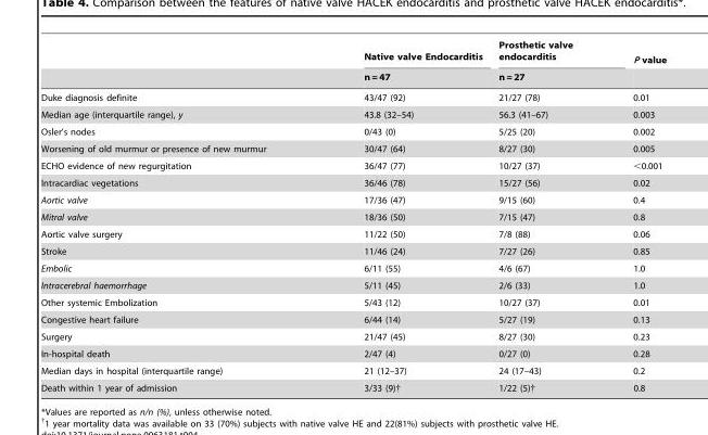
<table><thead><tr><td rowspan="2"></td><td rowspan="2">Native valve Endocarditis n = 47</td><td rowspan="2">Prosthetic valve endocarditis n = 27</td><td rowspan="2">P value</td></tr><tr></tr></thead><tbody><tr><td>Duke diagnosis definite</td><td>43/47 (92)</td><td>21/27 (78)</td><td>0.01</td></tr><tr><td>Median age (interquartile range), y</td><td>43.8 (32–54)</td><td>56.3 (41–67)</td><td>0.003</td></tr><tr><td>Osler’s nodes</td><td>0/43 (0)</td><td>5/25 (20)</td><td>0.002</td></tr><tr><td>Worsening of old murmur or presence of new murmur</td><td>30/47 (64)</td><td>8/27 (30)</td><td>0.005</td></tr><tr><td>ECHO evidence of new regurgitation</td><td>36/47 (77)</td><td>10/27 (37)</td><td>&lt;0.001</td></tr><tr><td>Intracardiac vegetations</td><td>36/46 (78)</td><td>15/27 (56)</td><td>0.02</td></tr><tr><td>Aortic valve</td><td>17/36 (47)</td><td>9/15 (60)</td><td>0.4</td></tr><tr><td>Mitral valve</td><td>18/36 (50)</td><td>7/15 (47)</td><td>0.8</td></tr><tr><td>Aortic valve surgery</td><td>11/22 (50)</td><td>7/8 (88)</td><td>0.06</td></tr><tr><td>Stroke</td><td>11/46 (24)</td><td>7/27 (26)</td><td>0.85</td></tr><tr><td>Embolic</td><td>6/11 (55)</td><td>4/6 (67)</td><td>1.0</td></tr><tr><td>Intracerebral haemorrhage</td><td>5/11 (45)</td><td>2/6 (33)</td><td>1.0</td></tr><tr><td>Other systemic Embolization</td><td>5/43 (12)</td><td>10/27 (37)</td><td>0.01</td></tr><tr><td>Congestive heart failure</td><td>6/44 (14)</td><td>5/27 (19)</td><td>0.13</td></tr><tr><td>Surgery</td><td>21/47 (45)</td><td>8/27 (30)</td><td>0.23</td></tr><tr><td>In-hospital death</td><td>2/47 (4)</td><td>0/27 (0)</td><td>0.28</td></tr><tr><td>Median days in hospital (interquartile range)</td><td>21 (12–37)</td><td>24 (17–43)</td><td>0.2</td></tr><tr><td>Death within 1 year of admission</td><td>3/33 (9)†</td><td>1/22 (5)†</td><td>0.8</td></tr></tbody></table>